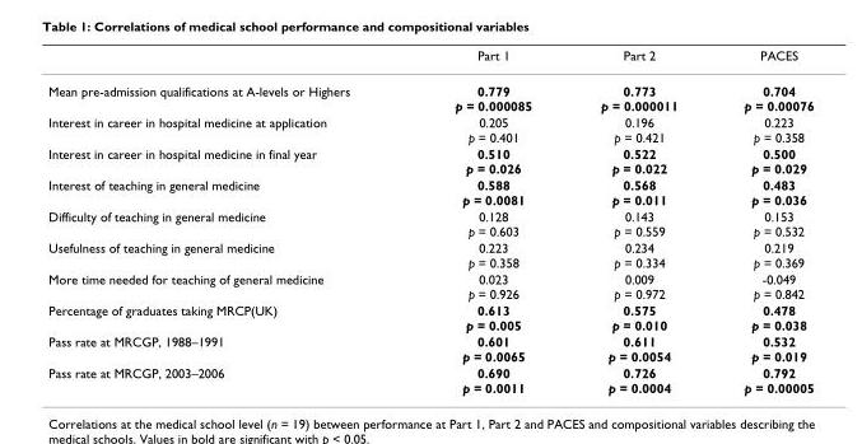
<table><thead><tr><td></td><td>Part 1</td><td>Part 2</td><td>PACES</td></tr></thead><tbody><tr><td>Mean pre-admission qualifications at A-levels or Highers</td><td>0.779 p = 0.000085</td><td>0.773 p = 0.000011</td><td>0.704 p = 0.00076</td></tr><tr><td>Interest in career in hospital medicine at application</td><td>0.205 p = 0.401</td><td>0.196 p = 0.421</td><td>0.223 p = 0.358</td></tr><tr><td>Interest in career in hospital medicine in final year</td><td>0.510 p = 0.026</td><td>0.522 p = 0.022</td><td>0.500 p = 0.029</td></tr><tr><td>Interest of teaching in general medicine</td><td>0.588 p = 0.0081</td><td>0.568 p = 0.011</td><td>0.483 p = 0.036</td></tr><tr><td>Difficulty of teaching in general medicine</td><td>0.128 p = 0.603</td><td>0.143 p = 0.559</td><td>0.153 p = 0.532</td></tr><tr><td>Usefulness of teaching in general medicine</td><td>0.223 p = 0.358</td><td>0.234 p = 0.334</td><td>0.219 p = 0.369</td></tr><tr><td>More time needed for teaching of general medicine</td><td>0.023 p = 0.926</td><td>0.009 p = 0.972</td><td>-0.049 p = 0.842</td></tr><tr><td>Percentage of graduates taking MRCP(UK)</td><td>0.613 p = 0.005</td><td>0.575 p = 0.010</td><td>0.478 p = 0.038</td></tr><tr><td>Pass rate at MRCGP, 1988–1991</td><td>0.601 p = 0.0065</td><td>0.611 p = 0.0054</td><td>0.532 p = 0.019</td></tr><tr><td>Pass rate at MRCGP, 2003–2006</td><td>0.690 p = 0.0011</td><td>0.726 p = 0.0004</td><td>0.792 p = 0.00005</td></tr></tbody></table>